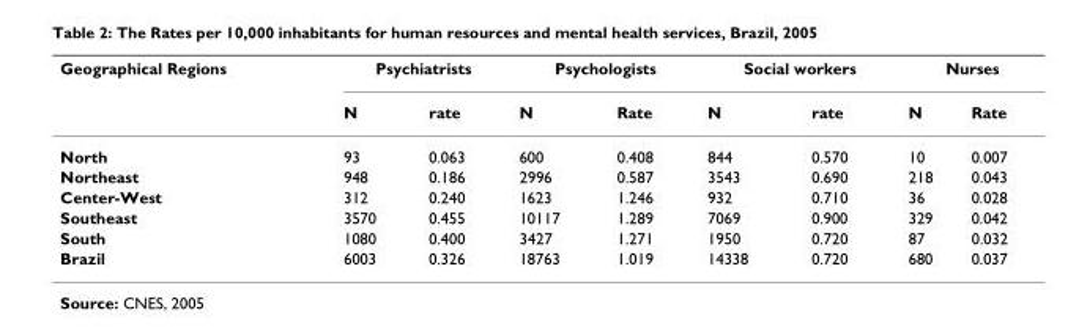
<table><thead><tr><td rowspan="2">Geographical Regions</td><td colspan="2">Psychiatrists</td><td colspan="2">Psychologists</td><td colspan="2">Social workers</td><td colspan="2">Nurses</td></tr><tr><td>N</td><td>rate</td><td>N</td><td>Rate</td><td>N</td><td>rate</td><td>N</td><td>Rate</td></tr></thead><tbody><tr><td>North</td><td>93</td><td>0.063</td><td>600</td><td>0.408</td><td>844</td><td>0.570</td><td>10</td><td>0.007</td></tr><tr><td>Northeast</td><td>948</td><td>0.186</td><td>2996</td><td>0.587</td><td>3543</td><td>0.690</td><td>218</td><td>0.043</td></tr><tr><td>Center-West</td><td>312</td><td>0.240</td><td>1623</td><td>1.246</td><td>932</td><td>0.710</td><td>36</td><td>0.028</td></tr><tr><td>Southeast</td><td>3570</td><td>0.455</td><td>10117</td><td>1.289</td><td>7069</td><td>0.900</td><td>329</td><td>0.042</td></tr><tr><td>South</td><td>1080</td><td>0.400</td><td>3427</td><td>1.271</td><td>1950</td><td>0.720</td><td>87</td><td>0.032</td></tr><tr><td>Brazil</td><td>6003</td><td>0.326</td><td>18763</td><td>1.019</td><td>14338</td><td>0.720</td><td>680</td><td>0.037</td></tr></tbody></table>